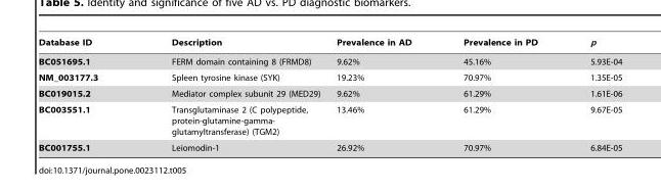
<table><thead><tr><td>Database ID</td><td>Description</td><td>Prevalence in AD</td><td>Prevalence in PD</td><td>p</td></tr></thead><tbody><tr><td>BC051695.1</td><td>FERM domain containing 8 (FRMD8)</td><td>9.62%</td><td>45.16%</td><td>5.93E-04</td></tr><tr><td>NM_003177.3</td><td>Spleen tyrosine kinase (SYK)</td><td>19.23%</td><td>70.97%</td><td>1.35E-05</td></tr><tr><td>BC019015.2</td><td>Mediator complex subunit 29 (MED29)</td><td>9.62%</td><td>61.29%</td><td>1.61E-06</td></tr><tr><td>BC003551.1</td><td>Transglutaminase 2 (C polypeptide, protein-glutamine-gamma- glutamyltransferase) (TGM2)</td><td>13.46%</td><td>61.29%</td><td>9.67E-05</td></tr><tr><td>BC001755.1</td><td>Leiomodin-1</td><td>26.92%</td><td>70.97%</td><td>6.84E-05</td></tr></tbody></table>